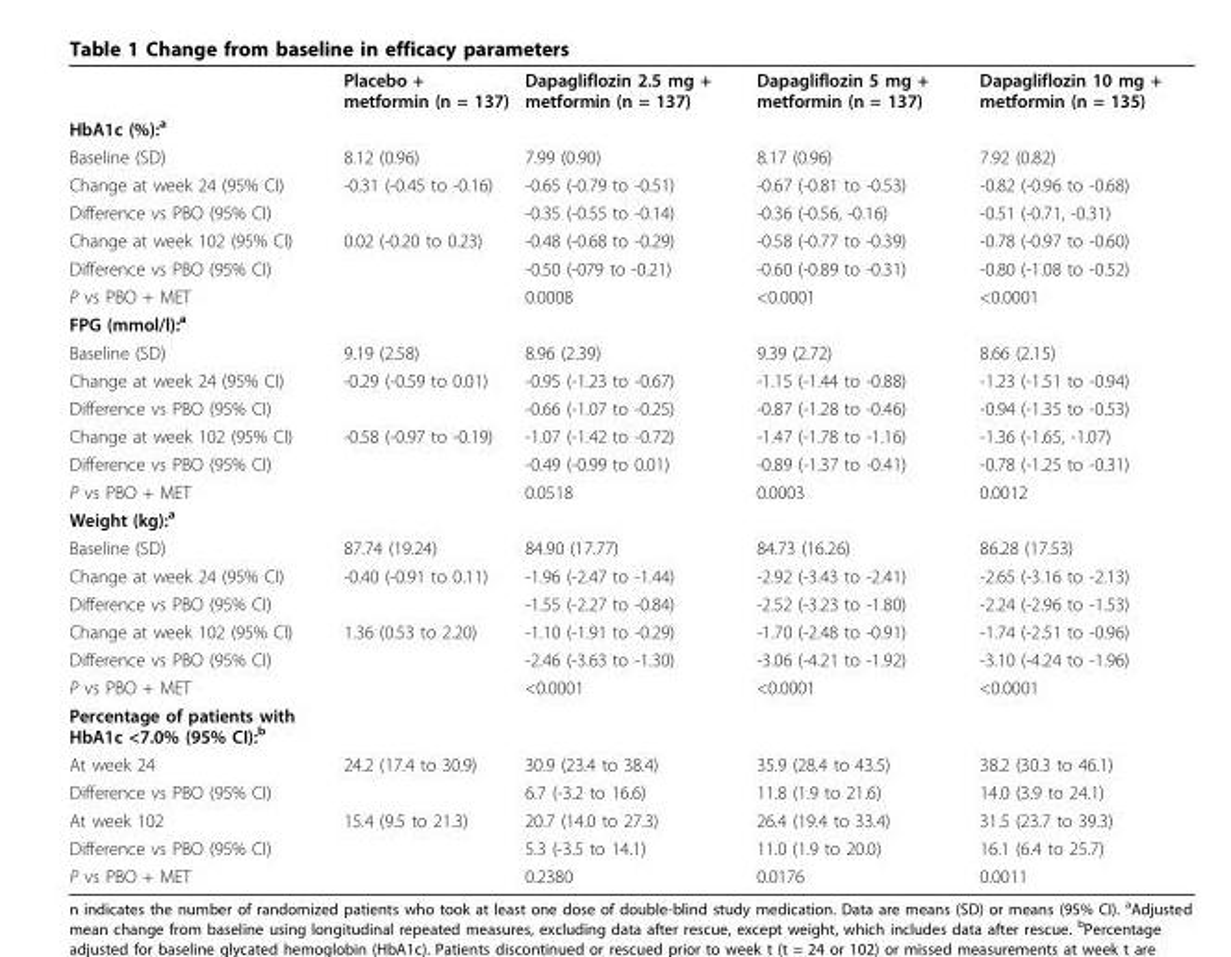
<table><thead><tr><td></td><td>Placebo + metformin (n = 137)</td><td>Dapagliflozin 2.5 mg + metformin (n = 137)</td><td>Dapagliflozin 5 mg + metformin (n = 137)</td><td>Dapagliflozin 10 mg + metformin (n = 135)</td></tr></thead><tbody><tr><td colspan="5">HbA1c (%):<sup>a</sup></td></tr><tr><td>Baseline (SD)</td><td>8.12 (0.96)</td><td>7.99 (0.90)</td><td>8.17 (0.96)</td><td>7.92 (0.82)</td></tr><tr><td>Change at week 24 (95% CI)</td><td>-0.31 (-0.45 to -0.16)</td><td>-0.65 (-0.79 to -0.51)</td><td>-0.67 (-0.81 to -0.53)</td><td>-0.82 (-0.96 to -0.68)</td></tr><tr><td>Difference vs PBO (95% CI)</td><td></td><td>-0.35 (-0.55 to -0.14)</td><td>-0.36 (-0.56, -0.16)</td><td>-0.51 (-0.71, -0.31)</td></tr><tr><td>Change at week 102 (95% CI)</td><td>0.02 (-0.20 to 0.23)</td><td>-0.48 (-0.68 to -0.29)</td><td>-0.58 (-0.77 to -0.39)</td><td>-0.78 (-0.97 to -0.60)</td></tr><tr><td>Difference vs PBO (95% CI)</td><td></td><td>-0.50 (-079 to -0.21)</td><td>-0.60 (-0.89 to -0.31)</td><td>-0.80 (-1.08 to -0.52)</td></tr><tr><td>P vs PBO + MET</td><td></td><td>0.0008</td><td>&lt;0.0001</td><td>&lt;0.0001</td></tr><tr><td colspan="5">FPG (mmol/l):<sup>a</sup></td></tr><tr><td>Baseline (SD)</td><td>9.19 (2.58)</td><td>8.96 (2.39)</td><td>9.39 (2.72)</td><td>8.66 (2.15)</td></tr><tr><td>Change at week 24 (95% CI)</td><td>-0.29 (-0.59 to 0.01)</td><td>-0.95 (-1.23 to -0.67)</td><td>-1.15 (-1.44 to -0.88)</td><td>-1.23 (-1.51 to -0.94)</td></tr><tr><td>Difference vs PBO (95% CI)</td><td></td><td>-0.66 (-1.07 to -0.25)</td><td>-0.87 (-1.28 to -0.46)</td><td>-0.94 (-1.35 to -0.53)</td></tr><tr><td>Change at week 102 (95% CI)</td><td>-0.58 (-0.97 to -0.19)</td><td>-1.07 (-1.42 to -0.72)</td><td>-1.47 (-1.78 to -1.16)</td><td>-1.36 (-1.65, -1.07)</td></tr><tr><td>Difference vs PBO (95% CI)</td><td></td><td>-0.49 (-0.99 to 0.01)</td><td>-0.89 (-1.37 to -0.41)</td><td>-0.78 (-1.25 to -0.31)</td></tr><tr><td>P vs PBO + MET</td><td></td><td>0.0518</td><td>0.0003</td><td>0.0012</td></tr><tr><td colspan="5">Weight (kg):<sup>a</sup></td></tr><tr><td>Baseline (SD)</td><td>87.74 (19.24)</td><td>84.90 (17.77)</td><td>84.73 (16.26)</td><td>86.28 (17.53)</td></tr><tr><td>Change at week 24 (95% CI)</td><td>-0.40 (-0.91 to 0.11)</td><td>-1.96 (-2.47 to -1.44)</td><td>-2.92 (-3.43 to -2.41)</td><td>-2.65 (-3.16 to -2.13)</td></tr><tr><td>Difference vs PBO (95% CI)</td><td></td><td>-1.55 (-2.27 to -0.84)</td><td>-2.52 (-3.23 to -1.80)</td><td>-2.24 (-2.96 to -1.53)</td></tr><tr><td>Change at week 102 (95% CI)</td><td>1.36 (0.53 to 2.20)</td><td>-1.10 (-1.91 to -0.29)</td><td>-1.70 (-2.48 to -0.91)</td><td>-1.74 (-2.51 to -0.96)</td></tr><tr><td>Difference vs PBO (95% CI)</td><td></td><td>-2.46 (-3.63 to -1.30)</td><td>-3.06 (-4.21 to -1.92)</td><td>-3.10 (-4.24 to -1.96)</td></tr><tr><td>P vs PBO + MET</td><td></td><td>&lt;0.0001</td><td>&lt;0.0001</td><td>&lt;0.0001</td></tr><tr><td colspan="5">Percentage of patients with HbA1c &lt;7.0% (95% CI):<sup>b</sup></td></tr><tr><td>At week 24</td><td>24.2 (17.4 to 30.9)</td><td>30.9 (23.4 to 38.4)</td><td>35.9 (28.4 to 43.5)</td><td>38.2 (30.3 to 46.1)</td></tr><tr><td>Difference vs PBO (95% CI)</td><td></td><td>6.7 (-3.2 to 16.6)</td><td>11.8 (1.9 to 21.6)</td><td>14.0 (3.9 to 24.1)</td></tr><tr><td>At week 102</td><td>15.4 (9.5 to 21.3)</td><td>20.7 (14.0 to 27.3)</td><td>26.4 (19.4 to 33.4)</td><td>31.5 (23.7 to 39.3)</td></tr><tr><td>Difference vs PBO (95% CI)</td><td></td><td>5.3 (-3.5 to 14.1)</td><td>11.0 (1.9 to 20.0)</td><td>16.1 (6.4 to 25.7)</td></tr><tr><td>P vs PBO + MET</td><td></td><td>0.2380</td><td>0.0176</td><td>0.0011</td></tr></tbody></table>